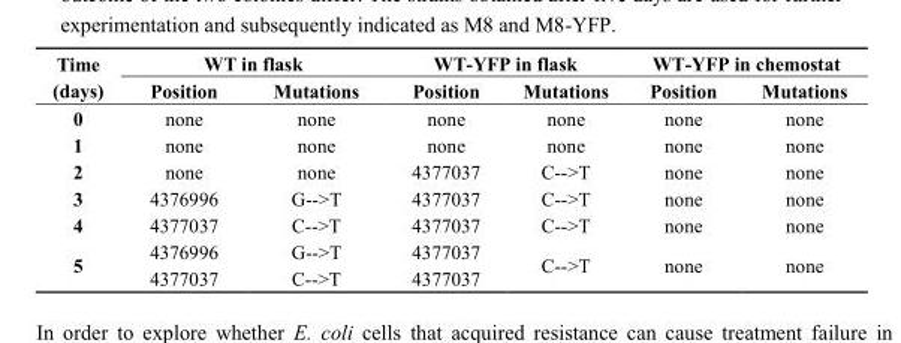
<table><thead><tr><td rowspan="2">Time (days)</td><td colspan="2">WT in flask</td><td colspan="2">WT-YFP in flask</td><td colspan="2">WT-YFP in chemostat</td></tr><tr><td>Position</td><td>Mutations</td><td>Position</td><td>Mutations</td><td>Position</td><td>Mutations</td></tr></thead><tbody><tr><td>0</td><td>none</td><td>none</td><td>none</td><td>none</td><td>none</td><td>none</td></tr><tr><td>1</td><td>none</td><td>none</td><td>none</td><td>none</td><td>none</td><td>none</td></tr><tr><td>2</td><td>none</td><td>none</td><td>4377037</td><td>C--&gt;T</td><td>none</td><td>none</td></tr><tr><td>3</td><td>4376996</td><td>G--&gt;T</td><td>4377037</td><td>C--&gt;T</td><td>none</td><td>none</td></tr><tr><td>4</td><td>4377037</td><td>C--&gt;T</td><td>4377037</td><td>C--&gt;T</td><td>none</td><td>none</td></tr><tr><td rowspan="2">5</td><td>4376996</td><td>G--&gt;T</td><td>4377037</td><td rowspan="2">C--&gt;T</td><td rowspan="2">none</td><td rowspan="2">none</td></tr><tr><td>4377037</td><td>C--&gt;T</td><td>4377037</td></tr></tbody></table>